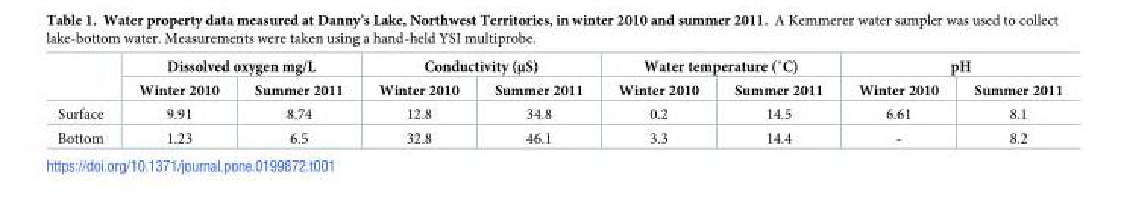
<table><thead><tr><td rowspan="2"></td><td colspan="2">Dissolved oxygen mg/L</td><td colspan="2">Conductivity (μS)</td><td colspan="2">Water temperature (˚C)</td><td colspan="2">pH</td></tr><tr><td>Winter 2010</td><td>Summer 2011</td><td>Winter 2010</td><td>Summer 2011</td><td>Winter 2010</td><td>Summer 2011</td><td>Winter 2010</td><td>Summer 2011</td></tr></thead><tbody><tr><td>Surface</td><td>9.91</td><td>8.74</td><td>12.8</td><td>34.8</td><td>0.2</td><td>14.5</td><td>6.61</td><td>8.1</td></tr><tr><td>Bottom</td><td>1.23</td><td>6.5</td><td>32.8</td><td>46.1</td><td>3.3</td><td>14.4</td><td>-</td><td>8.2</td></tr></tbody></table>